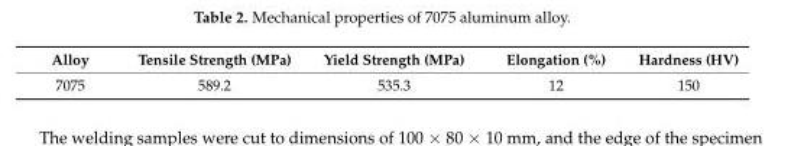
<table><thead><tr><td>Alloy</td><td>Tensile Strength (MPa)</td><td>Yield Strength (MPa)</td><td>Elongation (%)</td><td>Hardness (HV)</td></tr></thead><tbody><tr><td>7075</td><td>589.2</td><td>535.3</td><td>12</td><td>150</td></tr></tbody></table>